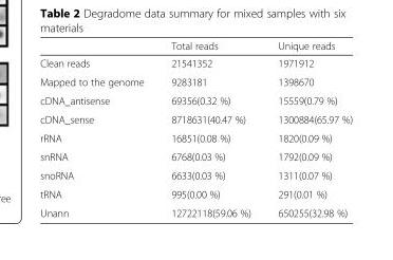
<table><thead><tr><td></td><td>Total reads</td><td>Unique reads</td></tr></thead><tbody><tr><td>Clean reads</td><td>21541352</td><td>1971912</td></tr><tr><td>Mapped to the genome</td><td>9283181</td><td>1398670</td></tr><tr><td>cDNA_antisense</td><td>69356(0.32 %)</td><td>15559(0.79 %)</td></tr><tr><td>cDNA_sense</td><td>8718631(40.47 %)</td><td>1300884(65.97 %)</td></tr><tr><td>rRNA</td><td>16851(0.08 %)</td><td>1820(0.09 %)</td></tr><tr><td>snRNA</td><td>6768(0.03 %)</td><td>1792(0.09 %)</td></tr><tr><td>snoRNA</td><td>6633(0.03 %)</td><td>1311(0.07 %)</td></tr><tr><td>tRNA</td><td>995(0.00 %)</td><td>291(0.01 %)</td></tr><tr><td>Unann</td><td>12722118(59.06 %)</td><td>650255(32.98 %)</td></tr></tbody></table>